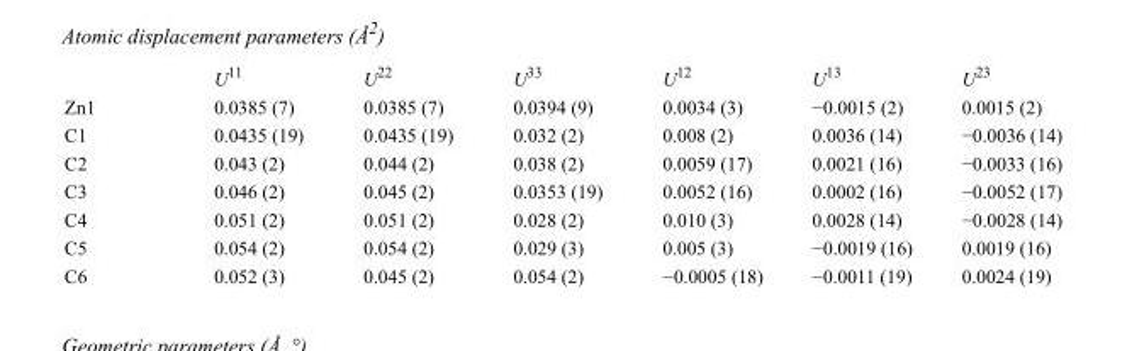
<table><thead><tr><td></td><td>U<sup>11</sup></td><td>U<sup>22</sup></td><td>U<sup>33</sup></td><td>U<sup>12</sup></td><td>U<sup>13</sup></td><td>U<sup>23</sup></td></tr></thead><tbody><tr><td>Zn1</td><td>0.0385 (7)</td><td>0.0385 (7)</td><td>0.0394 (9)</td><td>0.0034 (3)</td><td>−0.0015 (2)</td><td>0.0015 (2)</td></tr><tr><td>C1</td><td>0.0435 (19)</td><td>0.0435 (19)</td><td>0.032 (2)</td><td>0.008 (2)</td><td>0.0036 (14)</td><td>−0.0036 (14)</td></tr><tr><td>C2</td><td>0.043 (2)</td><td>0.044 (2)</td><td>0.038 (2)</td><td>0.0059 (17)</td><td>0.0021 (16)</td><td>−0.0033 (16)</td></tr><tr><td>C3</td><td>0.046 (2)</td><td>0.045 (2)</td><td>0.0353 (19)</td><td>0.0052 (16)</td><td>0.0002 (16)</td><td>−0.0052 (17)</td></tr><tr><td>C4</td><td>0.051 (2)</td><td>0.051 (2)</td><td>0.028 (2)</td><td>0.010 (3)</td><td>0.0028 (14)</td><td>−0.0028 (14)</td></tr><tr><td>C5</td><td>0.054 (2)</td><td>0.054 (2)</td><td>0.029 (3)</td><td>0.005 (3)</td><td>−0.0019 (16)</td><td>0.0019 (16)</td></tr><tr><td>C6</td><td>0.052 (3)</td><td>0.045 (2)</td><td>0.054 (2)</td><td>−0.0005 (18)</td><td>−0.0011 (19)</td><td>0.0024 (19)</td></tr></tbody></table>